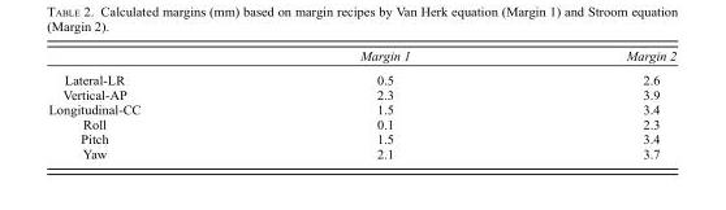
<table><thead><tr><td></td><td>Margin 1</td><td>Margin 2</td></tr></thead><tbody><tr><td>Lateral-LR</td><td>0.5</td><td>2.6</td></tr><tr><td>Vertical-AP</td><td>2.3</td><td>3.9</td></tr><tr><td>Longitudinal-CC</td><td>1.5</td><td>3.4</td></tr><tr><td>Roll</td><td>0.1</td><td>2.3</td></tr><tr><td>Pitch</td><td>1.5</td><td>3.4</td></tr><tr><td>Yaw</td><td>2.1</td><td>3.7</td></tr></tbody></table>